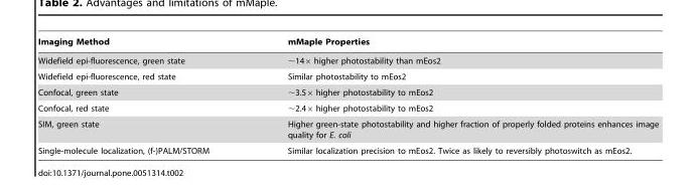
<table><thead><tr><td>Imaging Method</td><td>mMaple Properties</td></tr></thead><tbody><tr><td>Widefield epi-fluorescence, green state</td><td>∼14× higher photostability than mEos2</td></tr><tr><td>Widefield epi-fluorescence, red state</td><td>Similar photostability to mEos2</td></tr><tr><td>Confocal, green state</td><td>∼3.5× higher photostability to mEos2</td></tr><tr><td>Confocal, red state</td><td>∼2.4× higher photostability to mEos2</td></tr><tr><td>SIM, green state</td><td>Higher green-state photostability and higher fraction of properly folded proteins enhances image quality for E. coli</td></tr><tr><td>Single-molecule localization, (f-)PALM/STORM</td><td>Similar localization precision to mEos2. Twice as likely to reversibly photoswitch as mEos2.</td></tr></tbody></table>